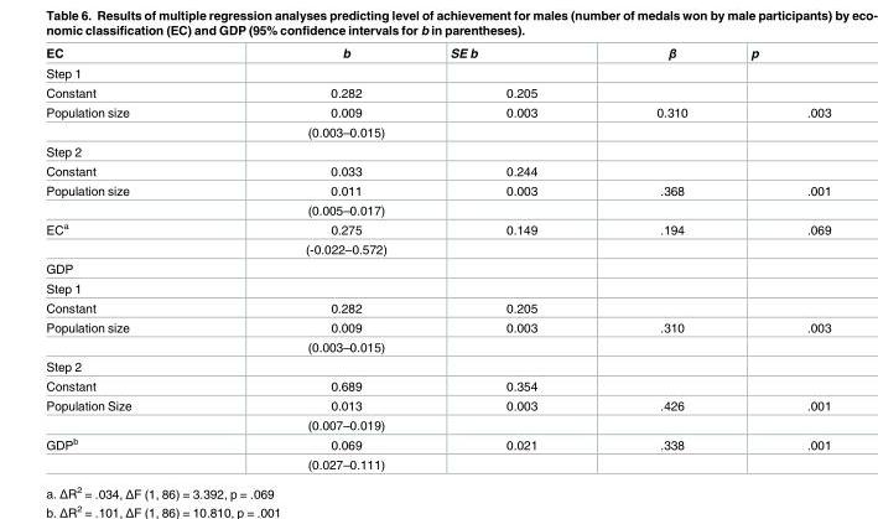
<table><thead><tr><td>EC</td><td>b</td><td>SE b</td><td>β</td><td>p</td></tr></thead><tbody><tr><td colspan="5">Step 1</td></tr><tr><td>Constant</td><td>0.282</td><td>0.205</td><td></td><td></td></tr><tr><td rowspan="2">Population size</td><td>0.009</td><td>0.003</td><td>0.310</td><td>.003</td></tr><tr><td>(0.003–0.015)</td><td></td><td></td><td></td></tr><tr><td colspan="5">Step 2</td></tr><tr><td>Constant</td><td>0.033</td><td>0.244</td><td></td><td></td></tr><tr><td rowspan="2">Population size</td><td>0.011</td><td>0.003</td><td>.368</td><td>.001</td></tr><tr><td>(0.005–0.017)</td><td></td><td></td><td></td></tr><tr><td rowspan="2">EC<sup>a</sup></td><td>0.275</td><td>0.149</td><td>.194</td><td>.069</td></tr><tr><td>(-0.022–0.572)</td><td></td><td></td><td></td></tr><tr><td colspan="5">GDP</td></tr><tr><td colspan="5">Step 1</td></tr><tr><td>Constant</td><td>0.282</td><td>0.205</td><td></td><td></td></tr><tr><td rowspan="2">Population size</td><td>0.009</td><td>0.003</td><td>.310</td><td>.003</td></tr><tr><td>(0.003–0.015)</td><td></td><td></td><td></td></tr><tr><td colspan="5">Step 2</td></tr><tr><td>Constant</td><td>0.689</td><td>0.354</td><td></td><td></td></tr><tr><td rowspan="2">Population Size</td><td>0.013</td><td>0.003</td><td>.426</td><td>.001</td></tr><tr><td>(0.007–0.019)</td><td></td><td></td><td></td></tr><tr><td rowspan="2">GDP<sup>b</sup></td><td>0.069</td><td>0.021</td><td>.338</td><td>.001</td></tr><tr><td>(0.027–0.111)</td><td></td><td></td><td></td></tr></tbody></table>